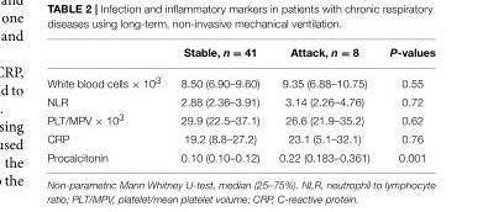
<table><thead><tr><td></td><td>Stable, n = 41</td><td>Attack, n = 8</td><td>P-values</td></tr></thead><tbody><tr><td>White blood cells × 10<sup>3</sup></td><td>8.50 (6.90–9.60)</td><td>9.35 (6.88–10.75)</td><td>0.55</td></tr><tr><td>NLR</td><td>2.88 (2.36–3.91)</td><td>3.14 (2.26–4.76)</td><td>0.72</td></tr><tr><td>PLT/MPV × 10<sup>3</sup></td><td>29.9 (22.5–37.1)</td><td>26.6 (21.9–35.2)</td><td>0.62</td></tr><tr><td>CRP</td><td>19.2 (8.8–27.2)</td><td>23.1 (5.1–32.1)</td><td>0.76</td></tr><tr><td>Procalcitonin</td><td>0.10 (0.10–0.12)</td><td>0.22 (0.183–0.361)</td><td>0.001</td></tr></tbody></table>